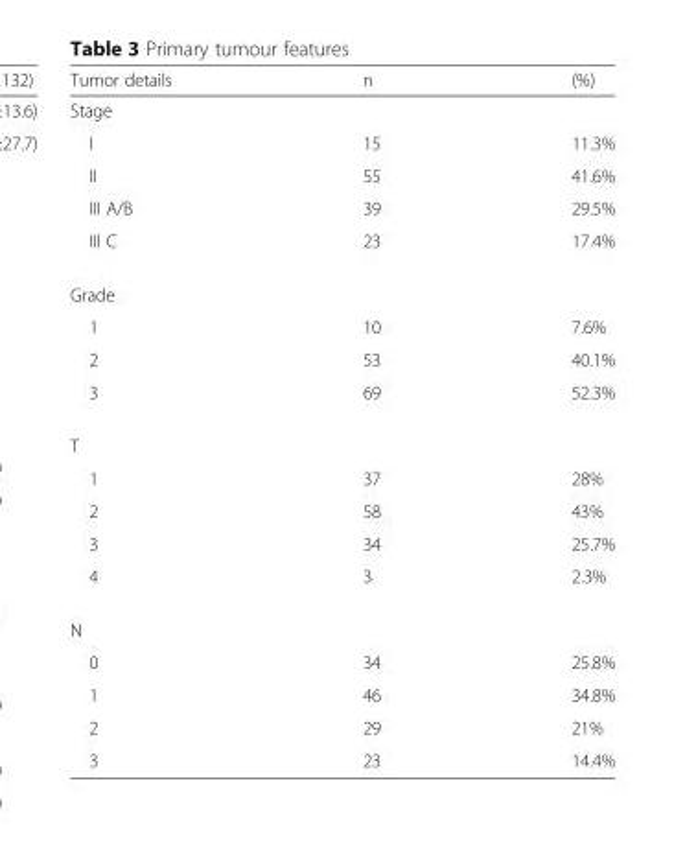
<table><thead><tr><td>Tumor details</td><td>n</td><td>(%)</td></tr></thead><tbody><tr><td colspan="3">Stage</td></tr><tr><td>I</td><td>15</td><td>11.3%</td></tr><tr><td>II</td><td>55</td><td>41.6%</td></tr><tr><td>III A/B</td><td>39</td><td>29.5%</td></tr><tr><td>III C</td><td>23</td><td>17.4%</td></tr><tr><td colspan="3">Grade</td></tr><tr><td>1</td><td>10</td><td>7.6%</td></tr><tr><td>2</td><td>53</td><td>40.1%</td></tr><tr><td>3</td><td>69</td><td>52.3%</td></tr><tr><td colspan="3">T</td></tr><tr><td>1</td><td>37</td><td>28%</td></tr><tr><td>2</td><td>58</td><td>43%</td></tr><tr><td>3</td><td>34</td><td>25.7%</td></tr><tr><td>4</td><td>3</td><td>2.3%</td></tr><tr><td colspan="3">N</td></tr><tr><td>0</td><td>34</td><td>25.8%</td></tr><tr><td>1</td><td>46</td><td>34.8%</td></tr><tr><td>2</td><td>29</td><td>21%</td></tr><tr><td>3</td><td>23</td><td>14.4%</td></tr></tbody></table>